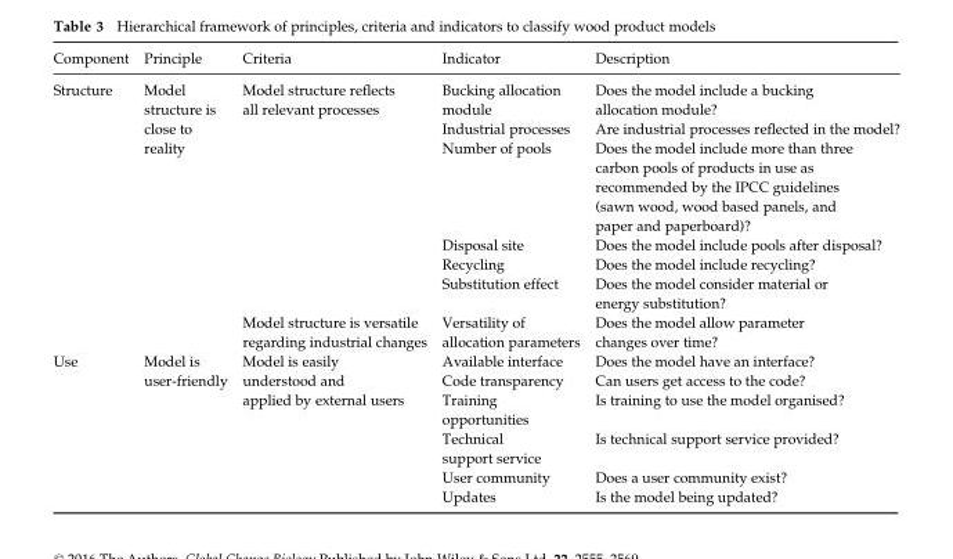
<table><thead><tr><td>Component</td><td>Principle</td><td>Criteria</td><td>Indicator</td><td>Description</td></tr></thead><tbody><tr><td rowspan="7">Structure</td><td rowspan="7">Model structure is close to reality</td><td rowspan="6">Model structure reflects all relevant processes</td><td>Bucking allocation module</td><td>Does the model include a bucking allocation module?</td></tr><tr><td>Industrial processes</td><td>Are industrial processes reflected in the model?</td></tr><tr><td>Number of pools</td><td>Does the model include more than three carbon pools of products in use as recommended by the IPCC guidelines (sawn wood, wood based panels, and paper and paperboard)?</td></tr><tr><td>Disposal site</td><td>Does the model include pools after disposal?</td></tr><tr><td>Recycling</td><td>Does the model include recycling?</td></tr><tr><td>Substitution effect</td><td>Does the model consider material or energy substitution?</td></tr><tr><td>Model structure is versatile regarding industrial changes</td><td>Versatility of allocation parameters</td><td>Does the model allow parameter changes over time?</td></tr><tr><td rowspan="6">Use</td><td rowspan="6">Model is user-friendly</td><td rowspan="6">Model is easily understood and applied by external users</td><td>Available interface</td><td>Does the model have an interface?</td></tr><tr><td>Code transparency</td><td>Can users get access to the code?</td></tr><tr><td>Training opportunities</td><td>Is training to use the model organised?</td></tr><tr><td>Technical support service</td><td>Is technical support service provided?</td></tr><tr><td>User community</td><td>Does a user community exist?</td></tr><tr><td>Updates</td><td>Is the model being updated?</td></tr></tbody></table>